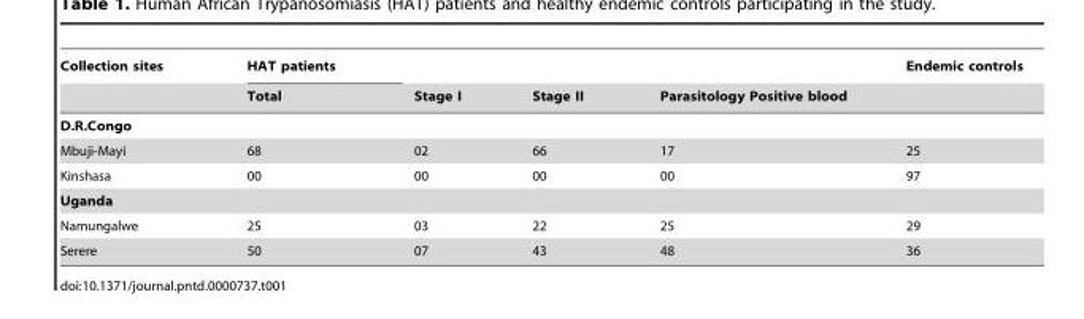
<table><thead><tr><td rowspan="2">Collection sites</td><td rowspan="2">HAT patients Total</td><td rowspan="2">Stage I</td><td rowspan="2">Stage II</td><td rowspan="2">Parasitology Positive blood</td><td rowspan="2">Endemic controls</td></tr><tr></tr></thead><tbody><tr><td colspan="6">D.R.Congo</td></tr><tr><td>Mbuji-Mayi</td><td>68</td><td>02</td><td>66</td><td>17</td><td>25</td></tr><tr><td>Kinshasa</td><td>00</td><td>00</td><td>00</td><td>00</td><td>97</td></tr><tr><td colspan="6">Uganda</td></tr><tr><td>Namungalwe</td><td>25</td><td>03</td><td>22</td><td>25</td><td>29</td></tr><tr><td>Serere</td><td>50</td><td>07</td><td>43</td><td>48</td><td>36</td></tr></tbody></table>